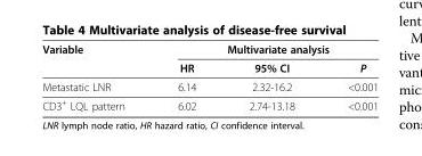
<table><thead><tr><td rowspan="2">Variable</td><td colspan="3">Multivariate analysis</td></tr><tr><td>HR</td><td>95% CI</td><td>P</td></tr></thead><tbody><tr><td>Metastatic LNR</td><td>6.14</td><td>2.32-16.2</td><td>&lt;0.001</td></tr><tr><td>CD3<sup>+</sup> LQL pattern</td><td>6.02</td><td>2.74-13.18</td><td>&lt;0.001</td></tr></tbody></table>